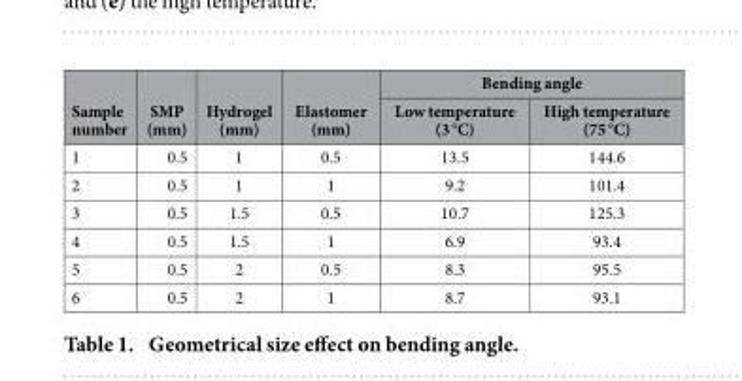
<table><thead><tr><td rowspan="2">Sample number</td><td rowspan="2">SMP (mm)</td><td rowspan="2">Hydrogel (mm)</td><td rowspan="2">Elastomer (mm)</td><td colspan="2">Bending angle</td></tr><tr><td>Low temperature (3 °C)</td><td>High temperature (75 °C)</td></tr></thead><tbody><tr><td>1</td><td>0.5</td><td>1</td><td>0.5</td><td>13.5</td><td>144.6</td></tr><tr><td>2</td><td>0.5</td><td>1</td><td>1</td><td>9.2</td><td>101.4</td></tr><tr><td>3</td><td>0.5</td><td>1.5</td><td>0.5</td><td>10.7</td><td>125.3</td></tr><tr><td>4</td><td>0.5</td><td>1.5</td><td>1</td><td>6.9</td><td>93.4</td></tr><tr><td>5</td><td>0.5</td><td>2</td><td>0.5</td><td>8.3</td><td>95.5</td></tr><tr><td>6</td><td>0.5</td><td>2</td><td>1</td><td>8.7</td><td>93.1</td></tr></tbody></table>